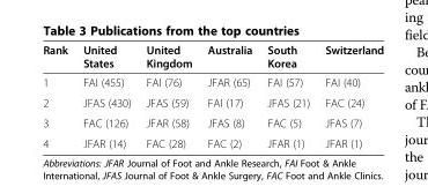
<table><thead><tr><td>Rank</td><td>United States</td><td>United Kingdom</td><td>Australia</td><td>South Korea</td><td>Switzerland</td></tr></thead><tbody><tr><td>1</td><td>FAI (455)</td><td>FAI (76)</td><td>JFAR (65)</td><td>FAI (57)</td><td>FAI (40)</td></tr><tr><td>2</td><td>JFAS (430)</td><td>JFAS (59)</td><td>FAI (17)</td><td>JFAS (21)</td><td>FAC (24)</td></tr><tr><td>3</td><td>FAC (126)</td><td>JFAR (58)</td><td>JFAS (8)</td><td>FAC (5)</td><td>JFAS (7)</td></tr><tr><td>4</td><td>JFAR (14)</td><td>FAC (28)</td><td>FAC (2)</td><td>JFAR (1)</td><td>JFAR (1)</td></tr></tbody></table>